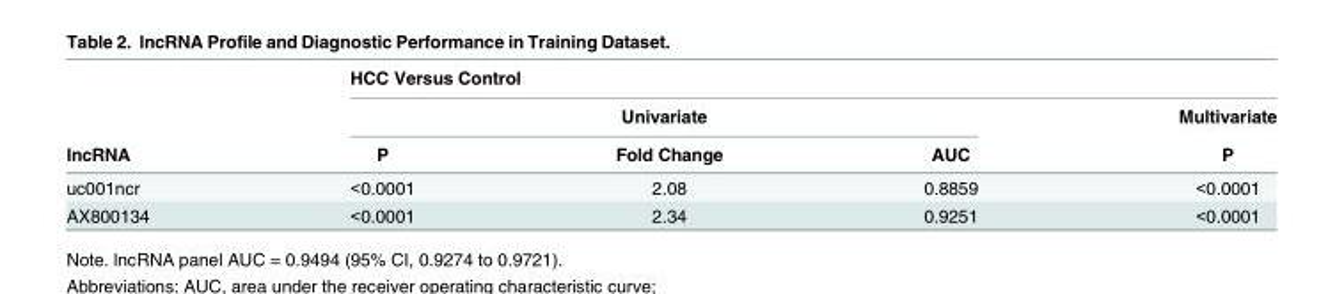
<table><thead><tr><td rowspan="3">lncRNA</td><td colspan="4">HCC Versus Control</td></tr><tr><td colspan="3">Univariate</td><td rowspan="2">Multivariate P</td></tr><tr><td>P</td><td>Fold Change</td><td>AUC</td></tr></thead><tbody><tr><td>uc001ncr</td><td>&lt;0.0001</td><td>2.08</td><td>0.8859</td><td>&lt;0.0001</td></tr><tr><td>AX800134</td><td>&lt;0.0001</td><td>2.34</td><td>0.9251</td><td>&lt;0.0001</td></tr></tbody></table>